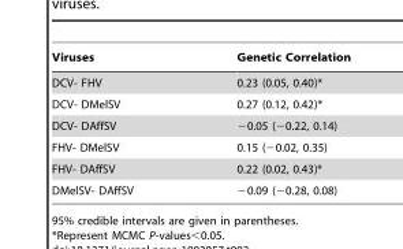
<table><thead><tr><td>Viruses</td><td>Genetic Correlation</td></tr></thead><tbody><tr><td>DCV- FHV</td><td>0.23 (0.05, 0.40)*</td></tr><tr><td>DCV- DMelSV</td><td>0.27 (0.12, 0.42)*</td></tr><tr><td>DCV- DAffSV</td><td>−0.05 (−0.22, 0.14)</td></tr><tr><td>FHV- DMelSV</td><td>0.15 (−0.02, 0.35)</td></tr><tr><td>FHV- DAffSV</td><td>0.22 (0.02, 0.43)*</td></tr><tr><td>DMelSV- DAffSV</td><td>−0.09 (−0.28, 0.08)</td></tr></tbody></table>